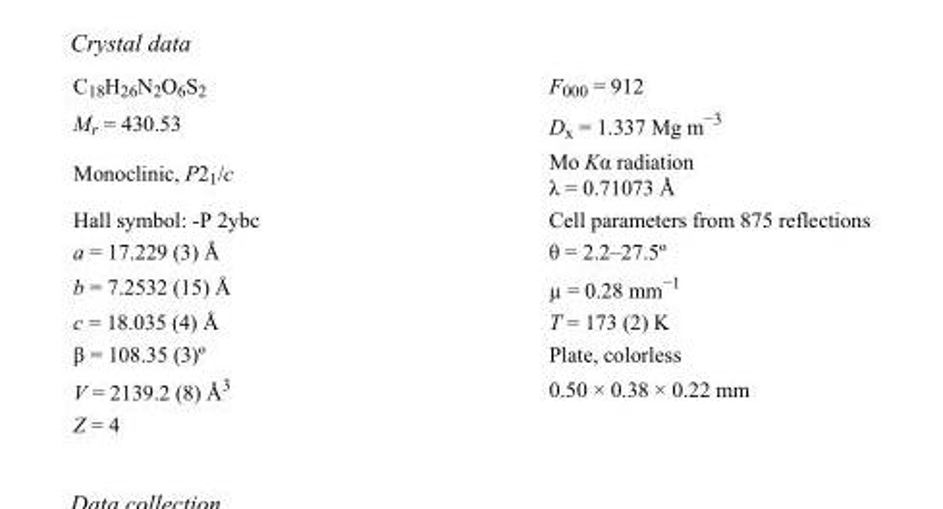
<table><tbody><tr><td>C<sub>18</sub>H<sub>26</sub>N<sub>2</sub>O<sub>6</sub>S<sub>2</sub></td><td>F<sub>000</sub> = 912</td></tr><tr><td>M<sub>r</sub> = 430.53</td><td>D<sub>x</sub> = 1.337 Mg m<sup>−3</sup></td></tr><tr><td>Monoclinic, P2<sub>1</sub>/c</td><td>Mo Kα radiation λ = 0.71073 Å</td></tr><tr><td>Hall symbol: -P 2ybc</td><td>Cell parameters from 875 reflections</td></tr><tr><td>a = 17.229 (3) Å</td><td>θ = 2.2–27.5º</td></tr><tr><td>b = 7.2532 (15) Å</td><td>µ = 0.28 mm<sup>−1</sup></td></tr><tr><td>c = 18.035 (4) Å</td><td>T = 173 (2) K</td></tr><tr><td>β = 108.35 (3)º</td><td>Plate, colorless</td></tr><tr><td>V = 2139.2 (8) Å<sup>3</sup></td><td>0.50 × 0.38 × 0.22 mm</td></tr><tr><td>Z = 4</td><td></td></tr></tbody></table>